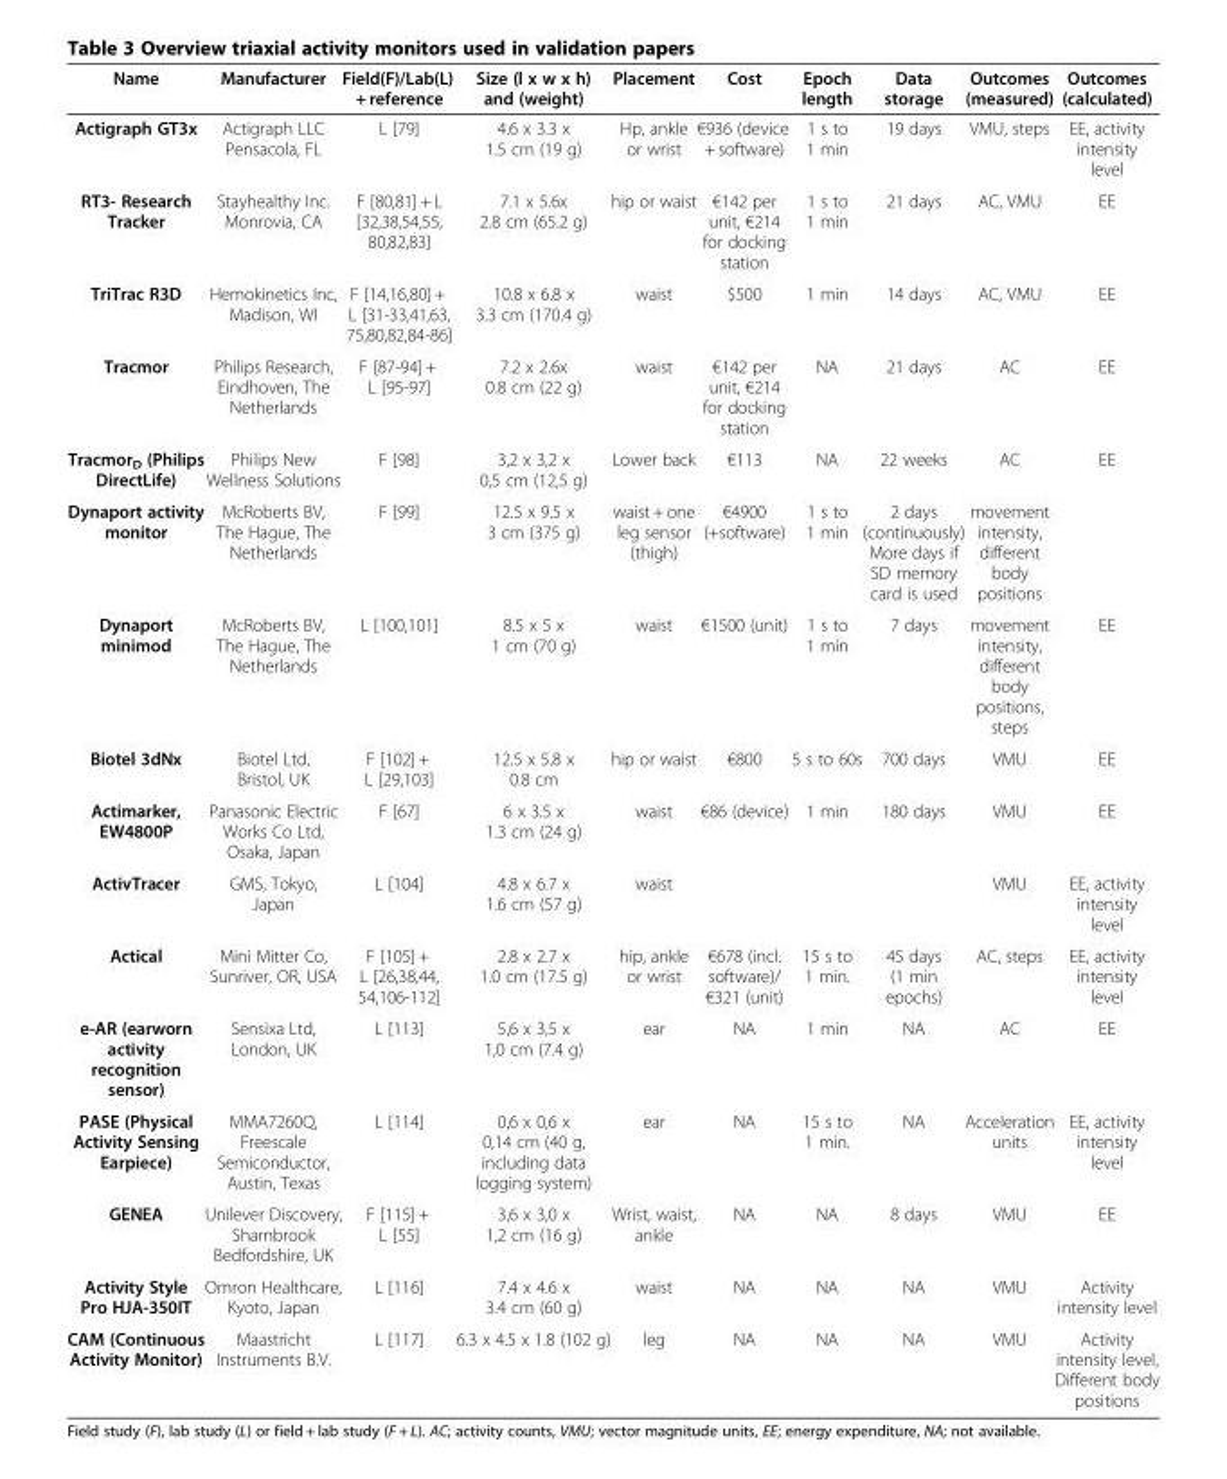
<table><thead><tr><td>Name</td><td>Manufacturer</td><td>Field(F)/Lab(L) + reference</td><td>Size (l x w x h) and (weight)</td><td>Placement</td><td>Cost</td><td>Epoch length</td><td>Data storage</td><td>Outcomes (measured)</td><td>Outcomes (calculated)</td></tr></thead><tbody><tr><td>Actigraph GT3x</td><td>Actigraph LLC Pensacola, FL</td><td>L [79]</td><td>4.6 x 3.3 x 1.5 cm (19 g)</td><td>Hp, ankle or wrist</td><td>€936 (device + software)</td><td>1 s to 1 min</td><td>19 days</td><td>VMU, steps</td><td>EE, activity intensity level</td></tr><tr><td>RT3- Research Tracker</td><td>Stayhealthy Inc. Monrovia, CA</td><td>F [80,81] + L [32,38,54,55, 80,82,83]</td><td>7.1 x 5.6x 2.8 cm (65.2 g)</td><td>hip or waist</td><td>€142 per unit, €214 for docking station</td><td>1 s to 1 min</td><td>21 days</td><td>AC, VMU</td><td>EE</td></tr><tr><td>TriTrac R3D</td><td>Hemokinetics Inc, Madison, WI</td><td>F [14,16,80] + L [31-33,41,63, 75,80,82,84-86]</td><td>10.8 x 6.8 x 3.3 cm (170.4 g)</td><td>waist</td><td>$500</td><td>1 min</td><td>14 days</td><td>AC, VMU</td><td>EE</td></tr><tr><td>Tracmor</td><td>Philips Research, Eindhoven, The Netherlands</td><td>F [87-94] + L [95-97]</td><td>7.2 x 2.6x 0.8 cm (22 g)</td><td>waist</td><td>€142 per unit, €214 for docking station</td><td>NA</td><td>21 days</td><td>AC</td><td>EE</td></tr><tr><td>Tracmor<sub>D</sub> (Philips DirectLife)</td><td>Philips New Wellness Solutions</td><td>F [98]</td><td>3,2 x 3,2 x 0,5 cm (12,5 g)</td><td>Lower back</td><td>€113</td><td>NA</td><td>22 weeks</td><td>AC</td><td>EE</td></tr><tr><td>Dynaport activity monitor</td><td>McRoberts BV, The Hague, The Netherlands</td><td>F [99]</td><td>12.5 x 9.5 x 3 cm (375 g)</td><td>waist + one leg sensor (thigh)</td><td>€4900 (+software)</td><td>1 s to 1 min</td><td>2 days (continuously) More days if SD memory card is used</td><td>movement intensity, different body positions</td><td></td></tr><tr><td>Dynaport minimod</td><td>McRoberts BV, The Hague, The Netherlands</td><td>L [100,101]</td><td>8.5 x 5 x 1 cm (70 g)</td><td>waist</td><td>€1500 (unit)</td><td>1 s to 1 min</td><td>7 days</td><td>movement intensity, different body positions, steps</td><td>EE</td></tr><tr><td>Biotel 3dNx</td><td>Biotel Ltd, Bristol, UK</td><td>F [102] + L [29,103]</td><td>12.5 x 5.8 x 0.8 cm</td><td>hip or waist</td><td>€800</td><td>5 s to 60s</td><td>700 days</td><td>VMU</td><td>EE</td></tr><tr><td>Actimarker, EW4800P</td><td>Panasonic Electric Works Co Ltd, Osaka, Japan</td><td>F [67]</td><td>6 x 3.5 x 1.3 cm (24 g)</td><td>waist</td><td>€86 (device)</td><td>1 min</td><td>180 days</td><td>VMU</td><td>EE</td></tr><tr><td>ActivTracer</td><td>GMS, Tokyo, Japan</td><td>L [104]</td><td>4.8 x 6.7 x 1.6 cm (57 g)</td><td>waist</td><td></td><td></td><td></td><td>VMU</td><td>EE, activity intensity level</td></tr><tr><td>Actical</td><td>Mini Mitter Co, Sunriver, OR, USA</td><td>F [105] + L [26,38,44, 54,106-112]</td><td>2.8 x 2.7 x 1.0 cm (17.5 g)</td><td>hip, ankle or wrist</td><td>€678 (incl. software)/ €321 (unit)</td><td>15 s to 1 min.</td><td>45 days (1 min epochs)</td><td>AC, steps</td><td>EE, activity intensity level</td></tr><tr><td>e-AR (earworn activity recognition sensor)</td><td>Sensixa Ltd, London, UK</td><td>L [113]</td><td>5,6 x 3,5 x 1,0 cm (7.4 g)</td><td>ear</td><td>NA</td><td>1 min</td><td>NA</td><td>AC</td><td>EE</td></tr><tr><td>PASE (Physical Activity Sensing Earpiece)</td><td>MMA7260Q, Freescale Semiconductor, Austin, Texas</td><td>L [114]</td><td>0,6 x 0,6 x 0,14 cm (40 g, including data logging system)</td><td>ear</td><td>NA</td><td>15 s to 1 min.</td><td>NA</td><td>Acceleration units</td><td>EE, activity intensity level</td></tr><tr><td>GENEA</td><td>Unilever Discovery, Sharnbrook Bedfordshire, UK</td><td>F [115] + L [55]</td><td>3,6 x 3,0 x 1,2 cm (16 g)</td><td>Wrist, waist, ankle</td><td>NA</td><td>NA</td><td>8 days</td><td>VMU</td><td>EE</td></tr><tr><td>Activity Style Pro HJA-350IT</td><td>Omron Healthcare, Kyoto, Japan</td><td>L [116]</td><td>7.4 x 4.6 x 3.4 cm (60 g)</td><td>waist</td><td>NA</td><td>NA</td><td>NA</td><td>VMU</td><td>Activity intensity level</td></tr><tr><td>CAM (Continuous Activity Monitor)</td><td>Maastricht Instruments B.V.</td><td>L [117]</td><td>6.3 x 4.5 x 1.8 (102 g)</td><td>leg</td><td>NA</td><td>NA</td><td>NA</td><td>VMU</td><td>Activity intensity level, Different body positions</td></tr></tbody></table>